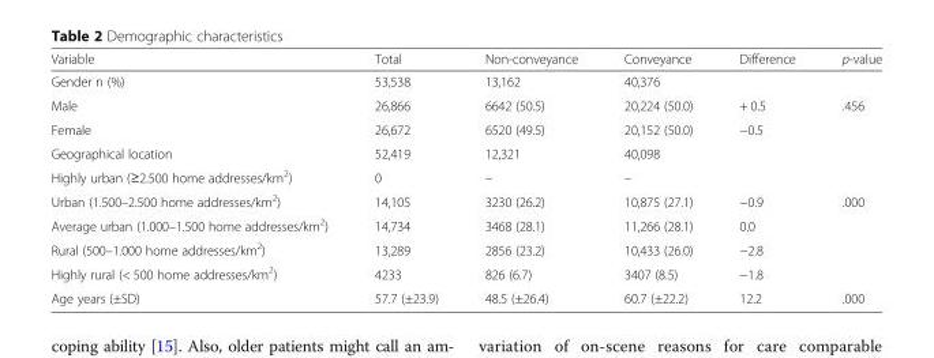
<table><thead><tr><td>Variable</td><td>Total</td><td>Non-conveyance</td><td>Conveyance</td><td>Difference</td><td>p-value</td></tr></thead><tbody><tr><td>Gender n (%)</td><td>53,538</td><td>13,162</td><td>40,376</td><td></td><td></td></tr><tr><td>Male</td><td>26,866</td><td>6642 (50.5)</td><td>20,224 (50.0)</td><td>+ 0.5</td><td>.456</td></tr><tr><td>Female</td><td>26,672</td><td>6520 (49.5)</td><td>20,152 (50.0)</td><td>−0.5</td><td></td></tr><tr><td>Geographical location</td><td>52,419</td><td>12,321</td><td>40,098</td><td></td><td></td></tr><tr><td>Highly urban (≥2.500 home addresses/km<sup>2</sup>)</td><td>0</td><td>–</td><td>–</td><td></td><td></td></tr><tr><td>Urban (1.500–2.500 home addresses/km<sup>2</sup>)</td><td>14,105</td><td>3230 (26.2)</td><td>10,875 (27.1)</td><td>−0.9</td><td>.000</td></tr><tr><td>Average urban (1.000–1.500 home addresses/km<sup>2</sup>)</td><td>14,734</td><td>3468 (28.1)</td><td>11,266 (28.1)</td><td>0.0</td><td></td></tr><tr><td>Rural (500–1.000 home addresses/km<sup>2</sup>)</td><td>13,289</td><td>2856 (23.2)</td><td>10,433 (26.0)</td><td>−2.8</td><td></td></tr><tr><td>Highly rural (&lt; 500 home addresses/km<sup>2</sup>)</td><td>4233</td><td>826 (6.7)</td><td>3407 (8.5)</td><td>−1.8</td><td></td></tr><tr><td>Age years (±SD)</td><td>57.7 (±23.9)</td><td>48.5 (±26.4)</td><td>60.7 (±22.2)</td><td>12.2</td><td>.000</td></tr></tbody></table>